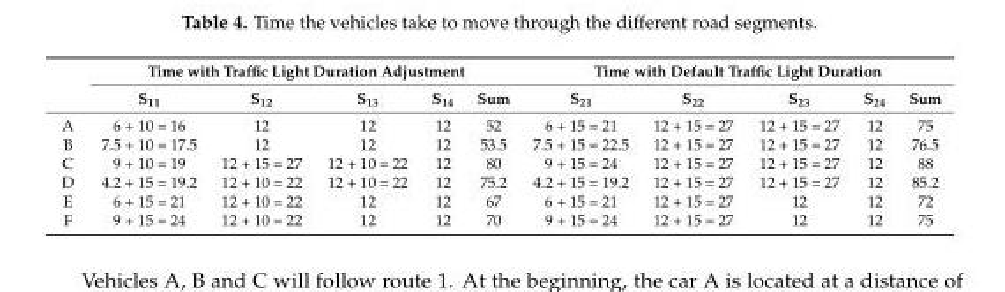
<table><thead><tr><td rowspan="2"></td><td colspan="5">Time with Traffic Light Duration Adjustment</td><td colspan="5">Time with Default Traffic Light Duration</td></tr><tr><td>S<sub>11</sub></td><td>S<sub>12</sub></td><td>S<sub>13</sub></td><td>S<sub>14</sub></td><td>Sum</td><td>S<sub>21</sub></td><td>S<sub>22</sub></td><td>S<sub>23</sub></td><td>S<sub>24</sub></td><td>Sum</td></tr></thead><tbody><tr><td>A</td><td>6 + 10 = 16</td><td>12</td><td>12</td><td>12</td><td>52</td><td>6 + 15 = 21</td><td>12 + 15 = 27</td><td>12 + 15 = 27</td><td>12</td><td>75</td></tr><tr><td>B</td><td>7.5 + 10 = 17.5</td><td>12</td><td>12</td><td>12</td><td>53.5</td><td>7.5 + 15 = 22.5</td><td>12 + 15 = 27</td><td>12 + 15 = 27</td><td>12</td><td>76.5</td></tr><tr><td>C</td><td>9 + 10 = 19</td><td>12 + 15 = 27</td><td>12 + 10 = 22</td><td>12</td><td>80</td><td>9 + 15 = 24</td><td>12 + 15 = 27</td><td>12 + 15 = 27</td><td>12</td><td>88</td></tr><tr><td>D</td><td>4.2 + 15 = 19.2</td><td>12 + 10 = 22</td><td>12 + 10 = 22</td><td>12</td><td>75.2</td><td>4.2 + 15 = 19.2</td><td>12 + 15 = 27</td><td>12 + 15 = 27</td><td>12</td><td>85.2</td></tr><tr><td>E</td><td>6 + 15 = 21</td><td>12 + 10 = 22</td><td>12</td><td>12</td><td>67</td><td>6 + 15 = 21</td><td>12 + 15 = 27</td><td>12</td><td>12</td><td>72</td></tr><tr><td>F</td><td>9 + 15 = 24</td><td>12 + 10 = 22</td><td>12</td><td>12</td><td>70</td><td>9 + 15 = 24</td><td>12 + 15 = 27</td><td>12</td><td>12</td><td>75</td></tr></tbody></table>